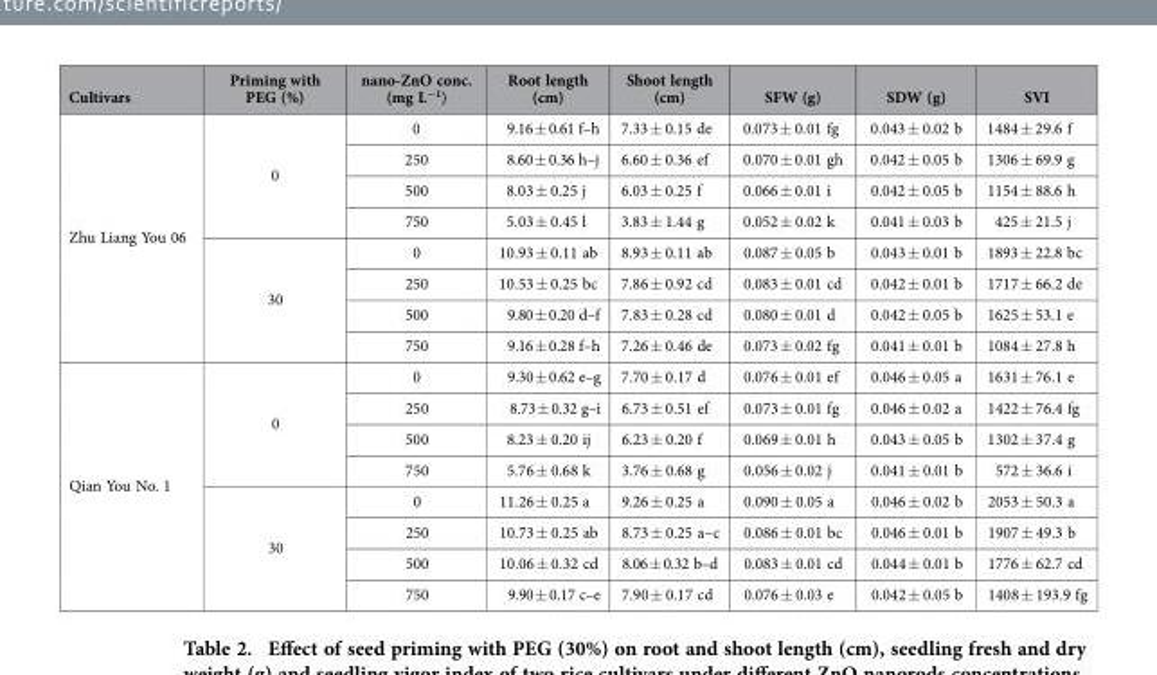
<table><thead><tr><td>Cultivars</td><td>Priming with PEG (%)</td><td>nano-ZnO conc. (mg L<sup>−1</sup>)</td><td>Root length (cm)</td><td>Shoot length (cm)</td><td>SFW (g)</td><td>SDW (g)</td><td>SVI</td></tr></thead><tbody><tr><td rowspan="8">Zhu Liang You 06</td><td rowspan="4">0</td><td>0</td><td>9.16 ± 0.61 f–h</td><td>7.33 ± 0.15 de</td><td>0.073 ± 0.01 fg</td><td>0.043 ± 0.02 b</td><td>1484 ± 29.6 f</td></tr><tr><td>250</td><td>8.60 ± 0.36 h–j</td><td>6.60 ± 0.36 ef</td><td>0.070 ± 0.01 gh</td><td>0.042 ± 0.05 b</td><td>1306 ± 69.9 g</td></tr><tr><td>500</td><td>8.03 ± 0.25 j</td><td>6.03 ± 0.25 f</td><td>0.066 ± 0.01 i</td><td>0.042 ± 0.05 b</td><td>1154 ± 88.6 h</td></tr><tr><td>750</td><td>5.03 ± 0.45 l</td><td>3.83 ± 1.44 g</td><td>0.052 ± 0.02 k</td><td>0.041 ± 0.03 b</td><td>425 ± 21.5 j</td></tr><tr><td rowspan="4">30</td><td>0</td><td>10.93 ± 0.11 ab</td><td>8.93 ± 0.11 ab</td><td>0.087 ± 0.05 b</td><td>0.043 ± 0.01 b</td><td>1893 ± 22.8 bc</td></tr><tr><td>250</td><td>10.53 ± 0.25 bc</td><td>7.86 ± 0.92 cd</td><td>0.083 ± 0.01 cd</td><td>0.042 ± 0.01 b</td><td>1717 ± 66.2 de</td></tr><tr><td>500</td><td>9.80 ± 0.20 d–f</td><td>7.83 ± 0.28 cd</td><td>0.080 ± 0.01 d</td><td>0.042 ± 0.05 b</td><td>1625 ± 53.1 e</td></tr><tr><td>750</td><td>9.16 ± 0.28 f–h</td><td>7.26 ± 0.46 de</td><td>0.073 ± 0.02 fg</td><td>0.041 ± 0.01 b</td><td>1084 ± 27.8 h</td></tr><tr><td rowspan="8">Qian You No. 1</td><td rowspan="4">0</td><td>0</td><td>9.30 ± 0.62 e–g</td><td>7.70 ± 0.17 d</td><td>0.076 ± 0.01 ef</td><td>0.046 ± 0.05 a</td><td>1631 ± 76.1 e</td></tr><tr><td>250</td><td>8.73 ± 0.32 g–i</td><td>6.73 ± 0.51 ef</td><td>0.073 ± 0.01 fg</td><td>0.046 ± 0.02 a</td><td>1422 ± 76.4 fg</td></tr><tr><td>500</td><td>8.23 ± 0.20 ij</td><td>6.23 ± 0.20 f</td><td>0.069 ± 0.01 h</td><td>0.043 ± 0.05 b</td><td>1302 ± 37.4 g</td></tr><tr><td>750</td><td>5.76 ± 0.68 k</td><td>3.76 ± 0.68 g</td><td>0.056 ± 0.02 j</td><td>0.041 ± 0.01 b</td><td>572 ± 36.6 i</td></tr><tr><td rowspan="4">30</td><td>0</td><td>11.26 ± 0.25 a</td><td>9.26 ± 0.25 a</td><td>0.090 ± 0.05 a</td><td>0.046 ± 0.02 b</td><td>2053 ± 50.3 a</td></tr><tr><td>250</td><td>10.73 ± 0.25 ab</td><td>8.73 ± 0.25 a–c</td><td>0.086 ± 0.01 bc</td><td>0.046 ± 0.01 b</td><td>1907 ± 49.3 b</td></tr><tr><td>500</td><td>10.06 ± 0.32 cd</td><td>8.06 ± 0.32 b–d</td><td>0.083 ± 0.01 cd</td><td>0.044 ± 0.01 b</td><td>1776 ± 62.7 cd</td></tr><tr><td>750</td><td>9.90 ± 0.17 c–e</td><td>7.90 ± 0.17 cd</td><td>0.076 ± 0.03 e</td><td>0.042 ± 0.05 b</td><td>1408 ± 193.9 fg</td></tr></tbody></table>